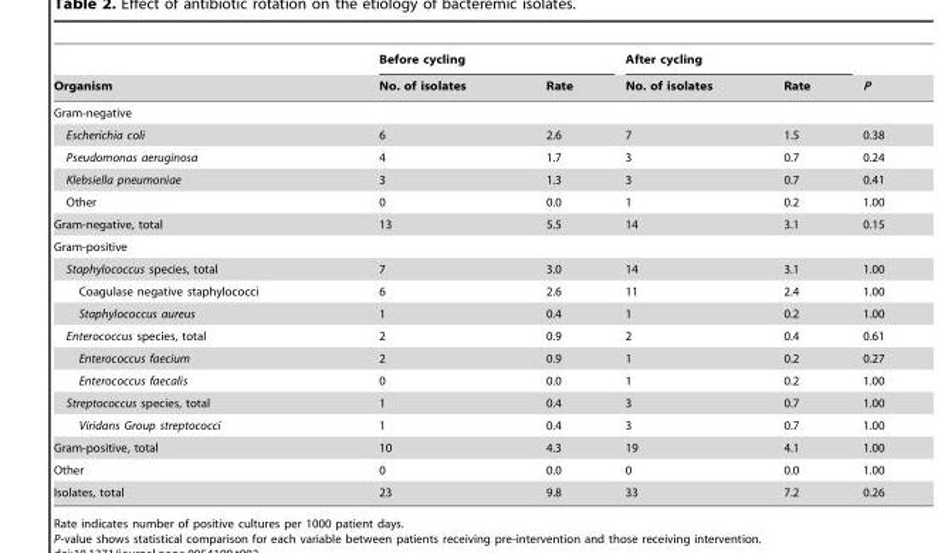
<table><thead><tr><td rowspan="2">Organism</td><td colspan="2">Before cycling</td><td colspan="2">After cycling</td><td rowspan="2">P</td></tr><tr><td>No. of isolates</td><td>Rate</td><td>No. of isolates</td><td>Rate</td></tr></thead><tbody><tr><td colspan="6">Gram-negative</td></tr><tr><td>Escherichia coli</td><td>6</td><td>2.6</td><td>7</td><td>1.5</td><td>0.38</td></tr><tr><td>Pseudomonas aeruginosa</td><td>4</td><td>1.7</td><td>3</td><td>0.7</td><td>0.24</td></tr><tr><td>Klebsiella pneumoniae</td><td>3</td><td>1.3</td><td>3</td><td>0.7</td><td>0.41</td></tr><tr><td>Other</td><td>0</td><td>0.0</td><td>1</td><td>0.2</td><td>1.00</td></tr><tr><td>Gram-negative, total</td><td>13</td><td>5.5</td><td>14</td><td>3.1</td><td>0.15</td></tr><tr><td colspan="6">Gram-positive</td></tr><tr><td>Staphylococcus species, total</td><td>7</td><td>3.0</td><td>14</td><td>3.1</td><td>1.00</td></tr><tr><td>Coagulase negative staphylococci</td><td>6</td><td>2.6</td><td>11</td><td>2.4</td><td>1.00</td></tr><tr><td>Staphylococcus aureus</td><td>1</td><td>0.4</td><td>1</td><td>0.2</td><td>1.00</td></tr><tr><td>Enterococcus species, total</td><td>2</td><td>0.9</td><td>2</td><td>0.4</td><td>0.61</td></tr><tr><td>Enterococcus faecium</td><td>2</td><td>0.9</td><td>1</td><td>0.2</td><td>0.27</td></tr><tr><td>Enterococcus faecalis</td><td>0</td><td>0.0</td><td>1</td><td>0.2</td><td>1.00</td></tr><tr><td>Streptococcus species, total</td><td>1</td><td>0.4</td><td>3</td><td>0.7</td><td>1.00</td></tr><tr><td>Viridans Group streptococci</td><td>1</td><td>0.4</td><td>3</td><td>0.7</td><td>1.00</td></tr><tr><td>Gram-positive, total</td><td>10</td><td>4.3</td><td>19</td><td>4.1</td><td>1.00</td></tr><tr><td>Other</td><td>0</td><td>0.0</td><td>0</td><td>0.0</td><td>1.00</td></tr><tr><td>Isolates, total</td><td>23</td><td>9.8</td><td>33</td><td>7.2</td><td>0.26</td></tr></tbody></table>